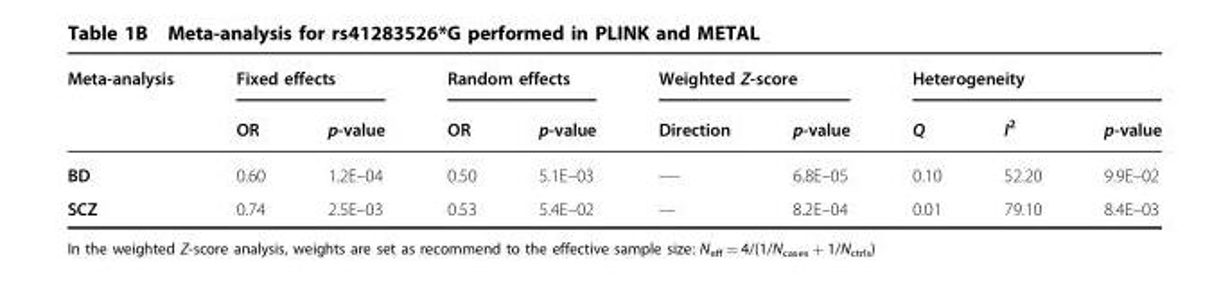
<table><thead><tr><td rowspan="2">Meta-analysis</td><td colspan="2">Fixed effects</td><td colspan="2">Random effects</td><td colspan="2">Weighted Z-score</td><td colspan="3">Heterogeneity</td></tr><tr><td>OR</td><td>p-value</td><td>OR</td><td>p-value</td><td>Direction</td><td>p-value</td><td>Q</td><td>I<sup>2</sup></td><td>p-value</td></tr></thead><tbody><tr><td>BD</td><td>0.60</td><td>1.2E–04</td><td>0.50</td><td>5.1E–03</td><td>----</td><td>6.8E–05</td><td>0.10</td><td>52.20</td><td>9.9E–02</td></tr><tr><td>SCZ</td><td>0.74</td><td>2.5E–03</td><td>0.53</td><td>5.4E–02</td><td>---</td><td>8.2E–04</td><td>0.01</td><td>79.10</td><td>8.4E–03</td></tr></tbody></table>